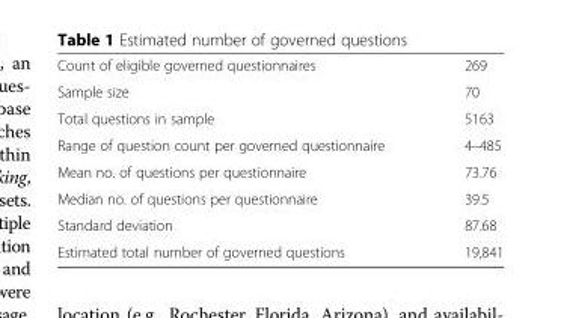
<table><tbody><tr><td>Count of eligible governed questionnaires</td><td>269</td></tr><tr><td>Sample size</td><td>70</td></tr><tr><td>Total questions in sample</td><td>5163</td></tr><tr><td>Range of question count per governed questionnaire</td><td>4–485</td></tr><tr><td>Mean no. of questions per questionnaire</td><td>73.76</td></tr><tr><td>Median no. of questions per questionnaire</td><td>39.5</td></tr><tr><td>Standard deviation</td><td>87.68</td></tr><tr><td>Estimated total number of governed questions</td><td>19,841</td></tr></tbody></table>